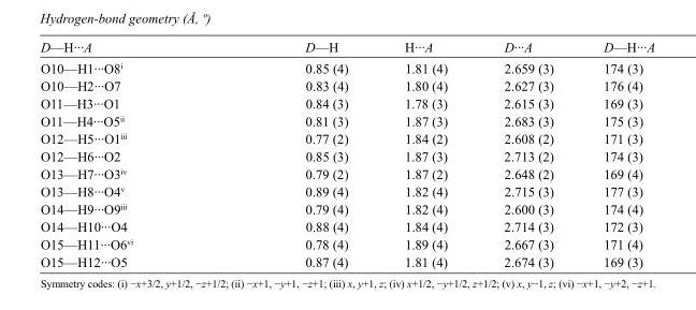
<table><tbody><tr><td>D—H···A</td><td>D—H</td><td>H···A</td><td>D···A</td><td>D—H···A</td></tr><tr><td>O10—H1···O8<sup>i</sup></td><td>0.85 (4)</td><td>1.81 (4)</td><td>2.659 (3)</td><td>174 (3)</td></tr><tr><td>O10—H2···O7</td><td>0.83 (4)</td><td>1.80 (4)</td><td>2.627 (3)</td><td>176 (4)</td></tr><tr><td>O11—H3···O1</td><td>0.84 (3)</td><td>1.78 (3)</td><td>2.615 (3)</td><td>169 (3)</td></tr><tr><td>O11—H4···O5<sup>ii</sup></td><td>0.81 (3)</td><td>1.87 (3)</td><td>2.683 (3)</td><td>175 (3)</td></tr><tr><td>O12—H5···O1<sup>iii</sup></td><td>0.77 (2)</td><td>1.84 (2)</td><td>2.608 (2)</td><td>171 (3)</td></tr><tr><td>O12—H6···O2</td><td>0.85 (3)</td><td>1.87 (3)</td><td>2.713 (2)</td><td>174 (3)</td></tr><tr><td>O13—H7···O3<sup>iv</sup></td><td>0.79 (2)</td><td>1.87 (2)</td><td>2.648 (2)</td><td>169 (4)</td></tr><tr><td>O13—H8···O4<sup>v</sup></td><td>0.89 (4)</td><td>1.82 (4)</td><td>2.715 (3)</td><td>177 (3)</td></tr><tr><td>O14—H9···O9<sup>iii</sup></td><td>0.79 (4)</td><td>1.82 (4)</td><td>2.600 (3)</td><td>174 (4)</td></tr><tr><td>O14—H10···O4</td><td>0.88 (4)</td><td>1.84 (4)</td><td>2.714 (3)</td><td>172 (3)</td></tr><tr><td>O15—H11···O6<sup>vi</sup></td><td>0.78 (4)</td><td>1.89 (4)</td><td>2.667 (3)</td><td>171 (4)</td></tr><tr><td>O15—H12···O5</td><td>0.87 (4)</td><td>1.81 (4)</td><td>2.674 (3)</td><td>169 (3)</td></tr></tbody></table>